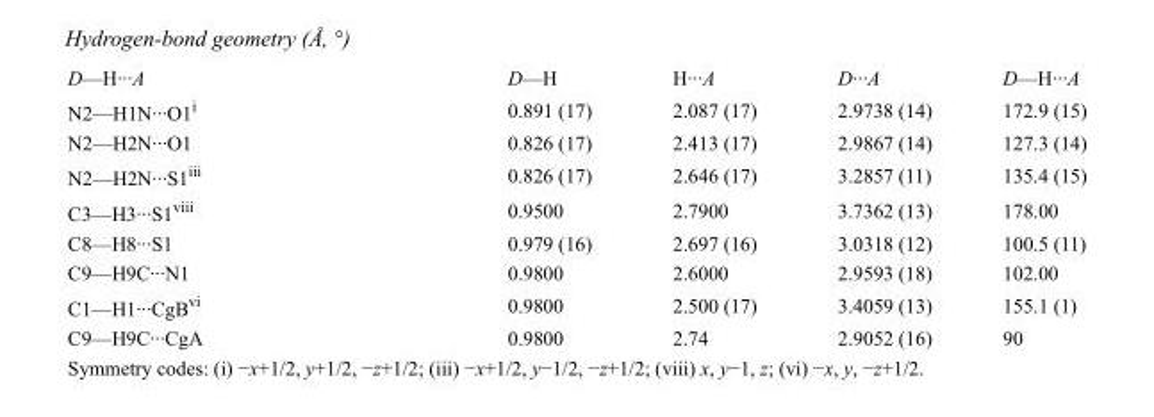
<table><tbody><tr><td>D—H···A</td><td>D—H</td><td>H···A</td><td>D···A</td><td>D—H···A</td></tr><tr><td>N2—H1N···O1<sup>i</sup></td><td>0.891 (17)</td><td>2.087 (17)</td><td>2.9738 (14)</td><td>172.9 (15)</td></tr><tr><td>N2—H2N···O1</td><td>0.826 (17)</td><td>2.413 (17)</td><td>2.9867 (14)</td><td>127.3 (14)</td></tr><tr><td>N2—H2N···S1<sup>iii</sup></td><td>0.826 (17)</td><td>2.646 (17)</td><td>3.2857 (11)</td><td>135.4 (15)</td></tr><tr><td>C3—H3···S1<sup>viii</sup></td><td>0.9500</td><td>2.7900</td><td>3.7362 (13)</td><td>178.00</td></tr><tr><td>C8—H8···S1</td><td>0.979 (16)</td><td>2.697 (16)</td><td>3.0318 (12)</td><td>100.5 (11)</td></tr><tr><td>C9—H9C···N1</td><td>0.9800</td><td>2.6000</td><td>2.9593 (18)</td><td>102.00</td></tr><tr><td>C1—H1···CgB<sup>vi</sup></td><td>0.9800</td><td>2.500 (17)</td><td>3.4059 (13)</td><td>155.1 (1)</td></tr><tr><td>C9—H9C···CgA</td><td>0.9800</td><td>2.74</td><td>2.9052 (16)</td><td>90</td></tr></tbody></table>